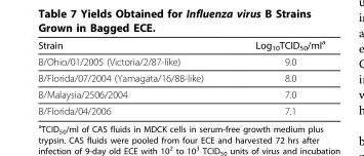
<table><thead><tr><td>Strain</td><td>Log<sub>10</sub>TCID<sub>50</sub>/ml<sup>a</sup></td></tr></thead><tbody><tr><td>B/Ohio/01/2005 (Victoria/2/87-like)</td><td>9.0</td></tr><tr><td>B/Florida/07/2004 (Yamagata/16/88-like)</td><td>8.0</td></tr><tr><td>B/Malaysia/2506/2004</td><td>7.0</td></tr><tr><td>B/Florida/04/2006</td><td>7.1</td></tr></tbody></table>